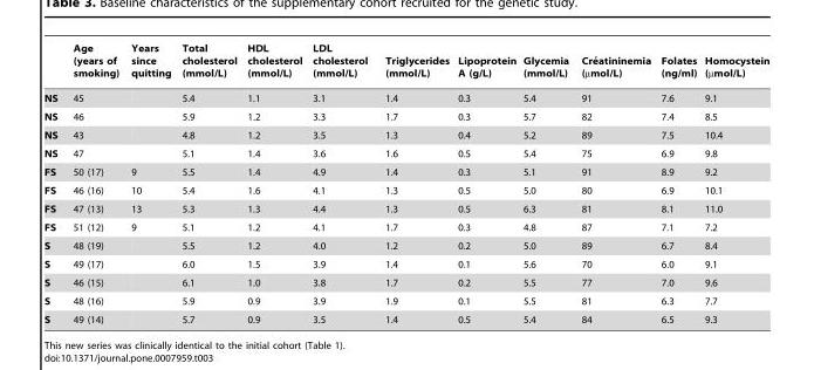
<table><thead><tr><td></td><td>Age (years of smoking)</td><td>Years since quitting</td><td>Total cholesterol (mmol/L)</td><td>HDL cholesterol (mmol/L)</td><td>LDL cholesterol (mmol/L)</td><td>Triglycerides (mmol/L)</td><td>Lipoprotein A (g/L)</td><td>Glycemia (mmol/L)</td><td>Cre´atininemia (mmol/L)</td><td>Folates (ng/ml)</td><td>Homocystein (µmol/L)</td></tr></thead><tbody><tr><td>NS</td><td>45</td><td></td><td>5.4</td><td>1.1</td><td>3.1</td><td>1.4</td><td>0.3</td><td>5.4</td><td>91</td><td>7.6</td><td>9.1</td></tr><tr><td>NS</td><td>46</td><td></td><td>5.9</td><td>1.2</td><td>3.3</td><td>1.7</td><td>0.3</td><td>5.7</td><td>82</td><td>7.4</td><td>8.5</td></tr><tr><td>NS</td><td>43</td><td></td><td>4.8</td><td>1.2</td><td>3.5</td><td>1.3</td><td>0.4</td><td>5.2</td><td>89</td><td>7.5</td><td>10.4</td></tr><tr><td>NS</td><td>47</td><td></td><td>5.1</td><td>1.4</td><td>3.6</td><td>1.6</td><td>0.5</td><td>5.4</td><td>75</td><td>6.9</td><td>9.8</td></tr><tr><td>FS</td><td>50 (17)</td><td>9</td><td>5.5</td><td>1.4</td><td>4.9</td><td>1.4</td><td>0.3</td><td>5.1</td><td>91</td><td>8.9</td><td>9.2</td></tr><tr><td>FS</td><td>46 (16)</td><td>10</td><td>5.4</td><td>1.6</td><td>4.1</td><td>1.3</td><td>0.5</td><td>5.0</td><td>80</td><td>6.9</td><td>10.1</td></tr><tr><td>FS</td><td>47 (13)</td><td>13</td><td>5.3</td><td>1.3</td><td>4.4</td><td>1.3</td><td>0.5</td><td>6.3</td><td>81</td><td>8.1</td><td>11.0</td></tr><tr><td>FS</td><td>51 (12)</td><td>9</td><td>5.1</td><td>1.2</td><td>4.1</td><td>1.7</td><td>0.3</td><td>4.8</td><td>87</td><td>7.1</td><td>7.2</td></tr><tr><td>S</td><td>48 (19)</td><td></td><td>5.5</td><td>1.2</td><td>4.0</td><td>1.2</td><td>0.2</td><td>5.0</td><td>89</td><td>6.7</td><td>8.4</td></tr><tr><td>S</td><td>49 (17)</td><td></td><td>6.0</td><td>1.5</td><td>3.9</td><td>1.4</td><td>0.1</td><td>5.6</td><td>70</td><td>6.0</td><td>9.1</td></tr><tr><td>S</td><td>46 (15)</td><td></td><td>6.1</td><td>1.0</td><td>3.8</td><td>1.7</td><td>0.2</td><td>5.5</td><td>77</td><td>7.0</td><td>9.6</td></tr><tr><td>S</td><td>48 (16)</td><td></td><td>5.9</td><td>0.9</td><td>3.9</td><td>1.9</td><td>0.1</td><td>5.5</td><td>81</td><td>6.3</td><td>7.7</td></tr><tr><td>S</td><td>49 (14)</td><td></td><td>5.7</td><td>0.9</td><td>3.5</td><td>1.4</td><td>0.5</td><td>5.4</td><td>84</td><td>6.5</td><td>9.3</td></tr></tbody></table>